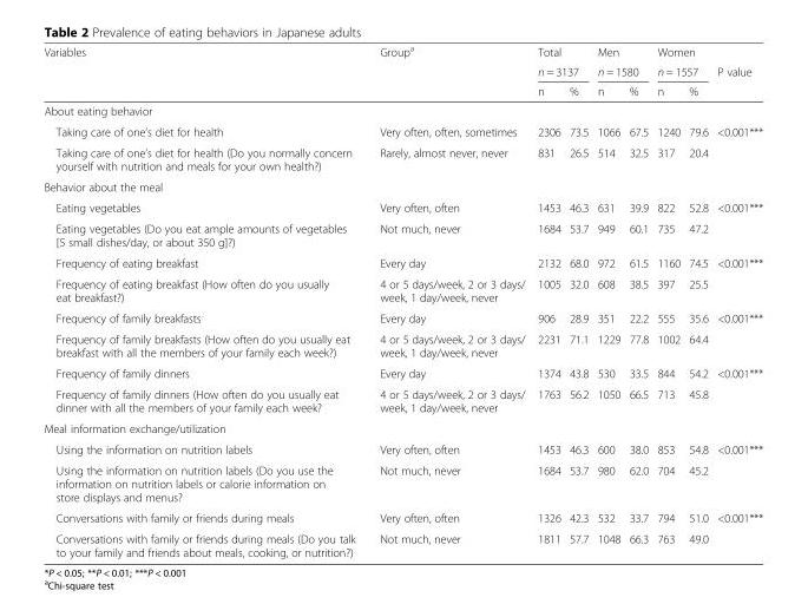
<table><thead><tr><td rowspan="3">Variables</td><td rowspan="3">Group<sup>a</sup></td><td rowspan="2" colspan="2">Total n = 3137</td><td rowspan="2" colspan="2">Men n = 1580</td><td rowspan="2" colspan="2">Women n = 1557</td><td rowspan="3">P value</td></tr><tr></tr><tr><td>n</td><td>%</td><td>n</td><td>%</td><td>n</td><td>%</td></tr></thead><tbody><tr><td colspan="9">About eating behavior</td></tr><tr><td>Taking care of one’s diet for health</td><td>Very often, often, sometimes</td><td>2306</td><td>73.5</td><td>1066</td><td>67.5</td><td>1240</td><td>79.6</td><td>&lt;0.001***</td></tr><tr><td>Taking care of one’s diet for health (Do you normally concern yourself with nutrition and meals for your own health?)</td><td>Rarely, almost never, never</td><td>831</td><td>26.5</td><td>514</td><td>32.5</td><td>317</td><td>20.4</td><td></td></tr><tr><td colspan="9">Behavior about the meal</td></tr><tr><td>Eating vegetables</td><td>Very often, often</td><td>1453</td><td>46.3</td><td>631</td><td>39.9</td><td>822</td><td>52.8</td><td>&lt;0.001***</td></tr><tr><td>Eating vegetables (Do you eat ample amounts of vegetables [5 small dishes/day, or about 350 g]?)</td><td>Not much, never</td><td>1684</td><td>53.7</td><td>949</td><td>60.1</td><td>735</td><td>47.2</td><td></td></tr><tr><td>Frequency of eating breakfast</td><td>Every day</td><td>2132</td><td>68.0</td><td>972</td><td>61.5</td><td>1160</td><td>74.5</td><td>&lt;0.001***</td></tr><tr><td>Frequency of eating breakfast (How often do you usually eat breakfast?)</td><td>4 or 5 days/week, 2 or 3 days/ week, 1 day/week, never</td><td>1005</td><td>32.0</td><td>608</td><td>38.5</td><td>397</td><td>25.5</td><td></td></tr><tr><td>Frequency of family breakfasts</td><td>Every day</td><td>906</td><td>28.9</td><td>351</td><td>22.2</td><td>555</td><td>35.6</td><td>&lt;0.001***</td></tr><tr><td>Frequency of family breakfasts (How often do you usually eat breakfast with all the members of your family each week?)</td><td>4 or 5 days/week, 2 or 3 days/ week, 1 day/week, never</td><td>2231</td><td>71.1</td><td>1229</td><td>77.8</td><td>1002</td><td>64.4</td><td></td></tr><tr><td>Frequency of family dinners</td><td>Every day</td><td>1374</td><td>43.8</td><td>530</td><td>33.5</td><td>844</td><td>54.2</td><td>&lt;0.001***</td></tr><tr><td>Frequency of family dinners (How often do you usually eat dinner with all the members of your family each week?</td><td>4 or 5 days/week, 2 or 3 days/ week, 1 day/week, never</td><td>1763</td><td>56.2</td><td>1050</td><td>66.5</td><td>713</td><td>45.8</td><td></td></tr><tr><td colspan="9">Meal information exchange/utilization</td></tr><tr><td>Using the information on nutrition labels</td><td>Very often, often</td><td>1453</td><td>46.3</td><td>600</td><td>38.0</td><td>853</td><td>54.8</td><td>&lt;0.001***</td></tr><tr><td>Using the information on nutrition labels (Do you use the information on nutrition labels or calorie information on store displays and menus?</td><td>Not much, never</td><td>1684</td><td>53.7</td><td>980</td><td>62.0</td><td>704</td><td>45.2</td><td></td></tr><tr><td>Conversations with family or friends during meals</td><td>Very often, often</td><td>1326</td><td>42.3</td><td>532</td><td>33.7</td><td>794</td><td>51.0</td><td>&lt;0.001***</td></tr><tr><td>Conversations with family or friends during meals (Do you talk to your family and friends about meals, cooking, or nutrition?)</td><td>Not much, never</td><td>1811</td><td>57.7</td><td>1048</td><td>66.3</td><td>763</td><td>49.0</td><td></td></tr></tbody></table>